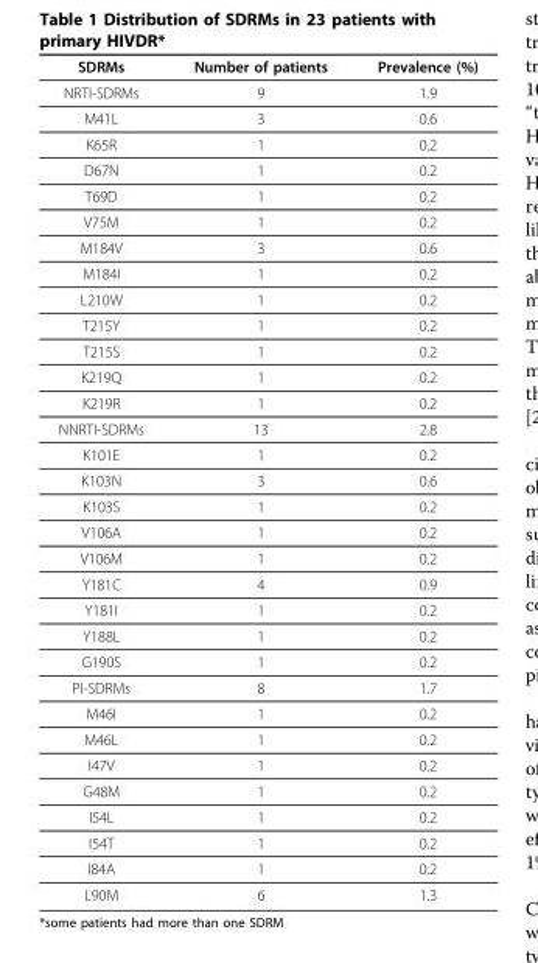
<table><thead><tr><td>SDRMs</td><td>Number of patients</td><td>Prevalence (%)</td></tr></thead><tbody><tr><td>NRTI-SDRMs</td><td>9</td><td>1.9</td></tr><tr><td>M41L</td><td>3</td><td>0.6</td></tr><tr><td>K65R</td><td>1</td><td>0.2</td></tr><tr><td>D67N</td><td>1</td><td>0.2</td></tr><tr><td>T69D</td><td>1</td><td>0.2</td></tr><tr><td>V75M</td><td>1</td><td>0.2</td></tr><tr><td>M184V</td><td>3</td><td>0.6</td></tr><tr><td>M184I</td><td>1</td><td>0.2</td></tr><tr><td>L210W</td><td>1</td><td>0.2</td></tr><tr><td>T215Y</td><td>1</td><td>0.2</td></tr><tr><td>T215S</td><td>1</td><td>0.2</td></tr><tr><td>K219Q</td><td>1</td><td>0.2</td></tr><tr><td>K219R</td><td>1</td><td>0.2</td></tr><tr><td>NNRTI-SDRMs</td><td>13</td><td>2.8</td></tr><tr><td>K101E</td><td>1</td><td>0.2</td></tr><tr><td>K103N</td><td>3</td><td>0.6</td></tr><tr><td>K103S</td><td>1</td><td>0.2</td></tr><tr><td>V106A</td><td>1</td><td>0.2</td></tr><tr><td>V106M</td><td>1</td><td>0.2</td></tr><tr><td>Y181C</td><td>4</td><td>0.9</td></tr><tr><td>Y181I</td><td>1</td><td>0.2</td></tr><tr><td>Y188L</td><td>1</td><td>0.2</td></tr><tr><td>G190S</td><td>1</td><td>0.2</td></tr><tr><td>PI-SDRMs</td><td>8</td><td>1.7</td></tr><tr><td>M46I</td><td>1</td><td>0.2</td></tr><tr><td>M46L</td><td>1</td><td>0.2</td></tr><tr><td>I47V</td><td>1</td><td>0.2</td></tr><tr><td>G48M</td><td>1</td><td>0.2</td></tr><tr><td>I54L</td><td>1</td><td>0.2</td></tr><tr><td>I54T</td><td>1</td><td>0.2</td></tr><tr><td>I84A</td><td>1</td><td>0.2</td></tr><tr><td>L90M</td><td>6</td><td>1.3</td></tr></tbody></table>